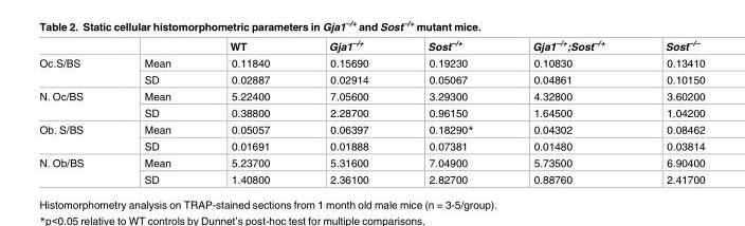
<table><thead><tr><td></td><td></td><td>WT</td><td>Gja1<sup>–/+</sup></td><td>Sost<sup>–/+</sup></td><td>Gja1<sup>–/+</sup>;Sost<sup>–/+</sup></td><td>Sost<sup>–/–</sup></td></tr></thead><tbody><tr><td rowspan="2">Oc.S/BS</td><td>Mean</td><td>0.11840</td><td>0.15690</td><td>0.19230</td><td>0.10830</td><td>0.13410</td></tr><tr><td>SD</td><td>0.02887</td><td>0.02914</td><td>0.05067</td><td>0.04861</td><td>0.10150</td></tr><tr><td rowspan="2">N. Oc/BS</td><td>Mean</td><td>5.22400</td><td>7.05600</td><td>3.29300</td><td>4.32800</td><td>3.60200</td></tr><tr><td>SD</td><td>0.38800</td><td>2.28700</td><td>0.96150</td><td>1.64500</td><td>1.04200</td></tr><tr><td rowspan="2">Ob. S/BS</td><td>Mean</td><td>0.05057</td><td>0.06397</td><td>0.18290*</td><td>0.04302</td><td>0.08462</td></tr><tr><td>SD</td><td>0.01691</td><td>0.01888</td><td>0.07381</td><td>0.01480</td><td>0.03814</td></tr><tr><td rowspan="2">N. Ob/BS</td><td>Mean</td><td>5.23700</td><td>5.31600</td><td>7.04900</td><td>5.73500</td><td>6.90400</td></tr><tr><td>SD</td><td>1.40800</td><td>2.36100</td><td>2.82700</td><td>0.88760</td><td>2.41700</td></tr></tbody></table>